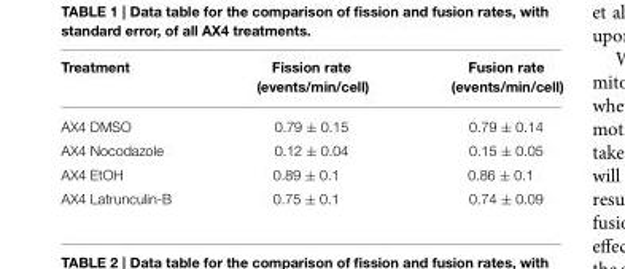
<table><thead><tr><td>Treatment</td><td>Fission rate (events/min/cell)</td><td>Fusion rate (events/min/cell)</td></tr></thead><tbody><tr><td>AX4 DMSO</td><td>0.79 ± 0.15</td><td>0.79 ± 0.14</td></tr><tr><td>AX4 Nocodazole</td><td>0.12 ± 0.04</td><td>0.15 ± 0.05</td></tr><tr><td>AX4 EtOH</td><td>0.89 ± 0.1</td><td>0.86 ± 0.1</td></tr><tr><td>AX4 Latrunculin-B</td><td>0.75 ± 0.1</td><td>0.74 ± 0.09</td></tr></tbody></table>